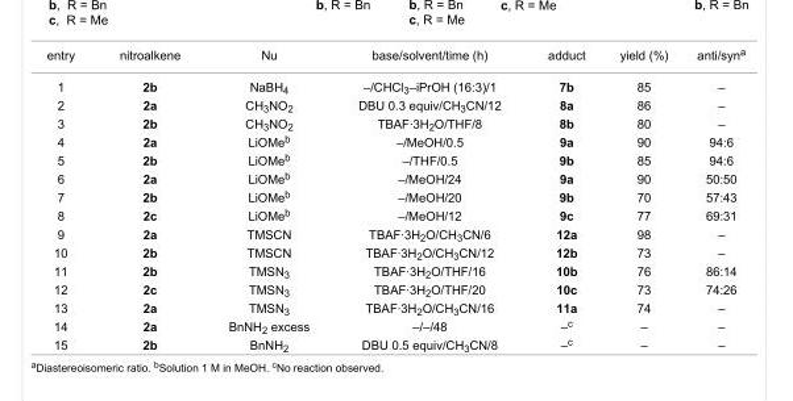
<table><tbody><tr><td>entry</td><td>nitroalkene</td><td>Nu</td><td>base/solvent/time (h)</td><td>adduct</td><td>yield (%)</td><td>anti/syn<sup>a</sup></td></tr><tr><td>1</td><td>2b</td><td>NaBH<sub>4</sub></td><td>–/CHCl<sub>3</sub>–iPrOH (16:3)/1</td><td>7b</td><td>85</td><td>–</td></tr><tr><td>2</td><td>2a</td><td>CH<sub>3</sub>NO<sub>2</sub></td><td>DBU 0.3 equiv/CH<sub>3</sub>CN/12</td><td>8a</td><td>86</td><td>–</td></tr><tr><td>3</td><td>2b</td><td>CH<sub>3</sub>NO<sub>2</sub></td><td>TBAF·3H<sub>2</sub>O/THF/8</td><td>8b</td><td>80</td><td>–</td></tr><tr><td>4</td><td>2a</td><td>LiOMe<sup>b</sup></td><td>–/MeOH/0.5</td><td>9a</td><td>90</td><td>94:6</td></tr><tr><td>5</td><td>2b</td><td>LiOMe<sup>b</sup></td><td>–/THF/0.5</td><td>9b</td><td>85</td><td>94:6</td></tr><tr><td>6</td><td>2a</td><td>LiOMe<sup>b</sup></td><td>–/MeOH/24</td><td>9a</td><td>90</td><td>50:50</td></tr><tr><td>7</td><td>2b</td><td>LiOMe<sup>b</sup></td><td>–/MeOH/20</td><td>9b</td><td>70</td><td>57:43</td></tr><tr><td>8</td><td>2c</td><td>LiOMe<sup>b</sup></td><td>–/MeOH/12</td><td>9c</td><td>77</td><td>69:31</td></tr><tr><td>9</td><td>2a</td><td>TMSCN</td><td>TBAF·3H<sub>2</sub>O/CH<sub>3</sub>CN/6</td><td>12a</td><td>98</td><td>–</td></tr><tr><td>10</td><td>2b</td><td>TMSCN</td><td>TBAF·3H<sub>2</sub>O/CH<sub>3</sub>CN/12</td><td>12b</td><td>73</td><td>–</td></tr><tr><td>11</td><td>2b</td><td>TMSN<sub>3</sub></td><td>TBAF·3H<sub>2</sub>O/THF/16</td><td>10b</td><td>76</td><td>86:14</td></tr><tr><td>12</td><td>2c</td><td>TMSN<sub>3</sub></td><td>TBAF·3H<sub>2</sub>O/THF/20</td><td>10c</td><td>73</td><td>74:26</td></tr><tr><td>13</td><td>2a</td><td>TMSN<sub>3</sub></td><td>TBAF·3H<sub>2</sub>O/CH<sub>3</sub>CN/16</td><td>11a</td><td>74</td><td>–</td></tr><tr><td>14</td><td>2a</td><td>BnNH<sub>2</sub> excess</td><td>–/–/48</td><td>–<sup>c</sup></td><td>–</td><td>–</td></tr><tr><td>15</td><td>2b</td><td>BnNH<sub>2</sub></td><td>DBU 0.5 equiv/CH<sub>3</sub>CN/8</td><td>–<sup>c</sup></td><td>–</td><td>–</td></tr></tbody></table>